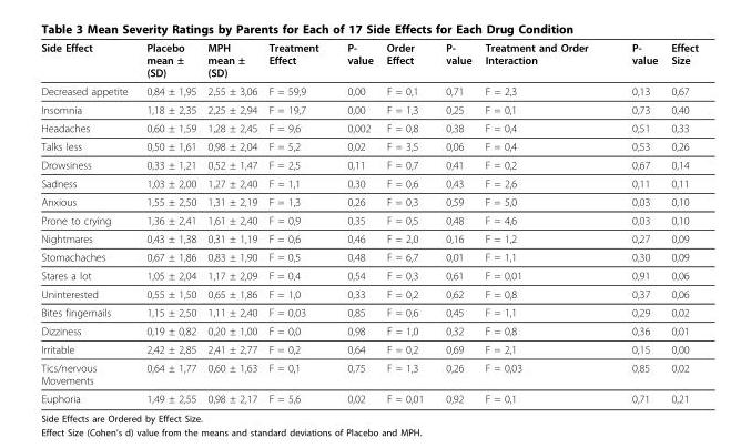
<table><thead><tr><td>Side Effect</td><td>Placebo mean ± (SD)</td><td>MPH mean ± (SD)</td><td>Treatment Effect</td><td>P- value</td><td>Order Effect</td><td>P- value</td><td>Treatment and Order Interaction</td><td>P- value</td><td>Effect Size</td></tr></thead><tbody><tr><td>Decreased appetite</td><td>0,84 ± 1,95</td><td>2,55 ± 3,06</td><td>F = 59,9</td><td>0,00</td><td>F = 0,1</td><td>0,71</td><td>F = 2,3</td><td>0,13</td><td>0,67</td></tr><tr><td>Insomnia</td><td>1,18 ± 2,35</td><td>2,25 ± 2,94</td><td>F = 19,7</td><td>0,00</td><td>F = 1,3</td><td>0,25</td><td>F = 0,1</td><td>0,73</td><td>0,40</td></tr><tr><td>Headaches</td><td>0,60 ± 1,59</td><td>1,28 ± 2,45</td><td>F = 9,6</td><td>0,002</td><td>F = 0,8</td><td>0,38</td><td>F = 0,4</td><td>0,51</td><td>0,33</td></tr><tr><td>Talks less</td><td>0,50 ± 1,61</td><td>0,98 ± 2,04</td><td>F = 5,2</td><td>0,02</td><td>F = 3,5</td><td>0,06</td><td>F = 0,4</td><td>0,53</td><td>0,26</td></tr><tr><td>Drowsiness</td><td>0,33 ± 1,21</td><td>0,52 ± 1,47</td><td>F = 2,5</td><td>0,11</td><td>F = 0,7</td><td>0,41</td><td>F = 0,2</td><td>0,67</td><td>0,14</td></tr><tr><td>Sadness</td><td>1,03 ± 2,00</td><td>1,27 ± 2,40</td><td>F = 1,1</td><td>0,30</td><td>F = 0,6</td><td>0,43</td><td>F = 2,6</td><td>0,11</td><td>0,11</td></tr><tr><td>Anxious</td><td>1,55 ± 2,50</td><td>1,31 ± 2,19</td><td>F = 1,3</td><td>0,26</td><td>F = 0,3</td><td>0,59</td><td>F = 5,0</td><td>0,03</td><td>0,10</td></tr><tr><td>Prone to crying</td><td>1,36 ± 2,41</td><td>1,61 ± 2,40</td><td>F = 0,9</td><td>0,35</td><td>F = 0,5</td><td>0,48</td><td>F = 4,6</td><td>0,03</td><td>0,10</td></tr><tr><td>Nightmares</td><td>0,43 ± 1,38</td><td>0,31 ± 1,19</td><td>F = 0,6</td><td>0,46</td><td>F = 2,0</td><td>0,16</td><td>F = 1,2</td><td>0,27</td><td>0,09</td></tr><tr><td>Stomachaches</td><td>0,67 ± 1,86</td><td>0,83 ± 1,90</td><td>F = 0,5</td><td>0,48</td><td>F = 6,7</td><td>0,01</td><td>F = 1,1</td><td>0,30</td><td>0,09</td></tr><tr><td>Stares a lot</td><td>1,05 ± 2,04</td><td>1,17 ± 2,09</td><td>F = 0,4</td><td>0,54</td><td>F = 0,3</td><td>0,61</td><td>F = 0,01</td><td>0,91</td><td>0,06</td></tr><tr><td>Uninterested</td><td>0,55 ± 1,50</td><td>0,65 ± 1,86</td><td>F = 1,0</td><td>0,33</td><td>F = 0,2</td><td>0,62</td><td>F = 0,8</td><td>0,37</td><td>0,06</td></tr><tr><td>Bites fingernails</td><td>1,15 ± 2,50</td><td>1,11 ± 2,40</td><td>F = 0,03</td><td>0,85</td><td>F = 0,6</td><td>0,45</td><td>F = 1,1</td><td>0,29</td><td>0,02</td></tr><tr><td>Dizziness</td><td>0,19 ± 0,82</td><td>0,20 ± 1,00</td><td>F = 0,0</td><td>0,98</td><td>F = 1,0</td><td>0,32</td><td>F = 0,8</td><td>0,36</td><td>0,01</td></tr><tr><td>Irritable</td><td>2,42 ± 2,85</td><td>2,41 ± 2,77</td><td>F = 0,2</td><td>0,64</td><td>F = 0,2</td><td>0,69</td><td>F = 2,1</td><td>0,15</td><td>0,00</td></tr><tr><td>Tics/nervous Movements</td><td>0,64 ± 1,77</td><td>0,60 ± 1,63</td><td>F = 0,1</td><td>0,75</td><td>F = 1,3</td><td>0,26</td><td>F = 0,03</td><td>0,85</td><td>0,02</td></tr><tr><td>Euphoria</td><td>1,49 ± 2,55</td><td>0,98 ± 2,17</td><td>F = 5,6</td><td>0,02</td><td>F = 0,01</td><td>0,92</td><td>F = 0,1</td><td>0,71</td><td>0,21</td></tr></tbody></table>